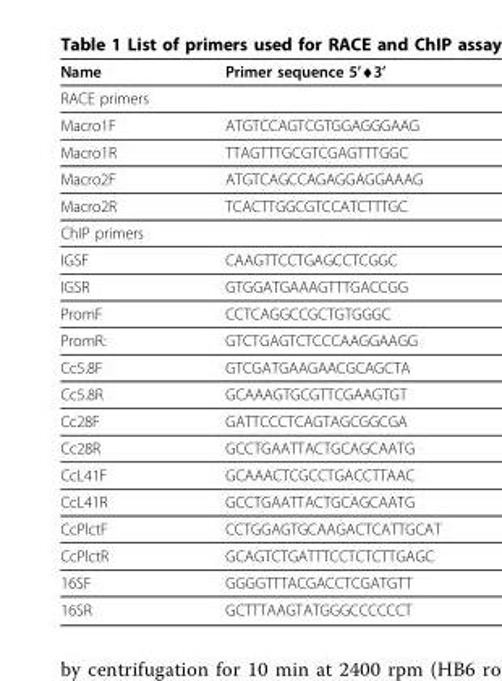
<table><thead><tr><td>Name</td><td>Primer sequence 5’→3’</td></tr></thead><tbody><tr><td colspan="2">RACE primers</td></tr><tr><td>Macro1F</td><td>ATGTCCAGTCGTGGAGGGAAG</td></tr><tr><td>Macro1R</td><td>TTAGTTTGCGTCGAGTTTGGC</td></tr><tr><td>Macro2F</td><td>ATGTCAGCCAGAGGAGGAAAG</td></tr><tr><td>Macro2R</td><td>TCACTTGGCGTCCATCTTTGC</td></tr><tr><td colspan="2">ChIP primers</td></tr><tr><td>IGSF</td><td>CAAGTTCCTGAGCCTCGGC</td></tr><tr><td>IGSR</td><td>GTGGATGAAAGTTTGACCGG</td></tr><tr><td>PromF</td><td>CCTCAGGCCGCTGTGGGC</td></tr><tr><td>PromR:</td><td>GTCTGAGTCTCCCAAGGAAGG</td></tr><tr><td>Cc5.8F</td><td>GTCGATGAAGAACGCAGCTA</td></tr><tr><td>Cc5.8R</td><td>GCAAAGTGCGTTCGAAGTGT</td></tr><tr><td>Cc28F</td><td>GATTCCCTCAGTAGCGGCGA</td></tr><tr><td>Cc28R</td><td>GCCTGAATTACTGCAGCAATG</td></tr><tr><td>CcL41F</td><td>GCAAACTCGCCTGACCTTAAC</td></tr><tr><td>CcL41R</td><td>GCCTGAATTACTGCAGCAATG</td></tr><tr><td>CcPlctF</td><td>CCTGGAGTGCAAGACTCATTGCAT</td></tr><tr><td>CcPlctR</td><td>GCAGTCTGATTTCCTCTCTTGAGC</td></tr><tr><td>16SF</td><td>GGGGTTTACGACCTCGATGTT</td></tr><tr><td>16SR</td><td>GCTTTAAGTATGGGCCCCCCT</td></tr></tbody></table>